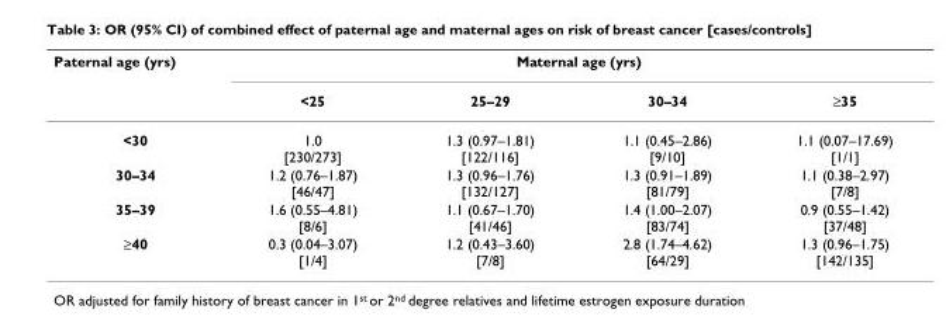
<table><thead><tr><td rowspan="2">Paternal age (yrs)</td><td colspan="4">Maternal age (yrs)</td></tr><tr><td>&lt;25</td><td>25–29</td><td>30–34</td><td>≥35</td></tr></thead><tbody><tr><td>&lt;30</td><td>1.0 [230/273]</td><td>1.3 (0.97–1.81) [122/116]</td><td>1.1 (0.45–2.86) [9/10]</td><td>1.1 (0.07–17.69) [1/1]</td></tr><tr><td>30–34</td><td>1.2 (0.76–1.87) [46/47]</td><td>1.3 (0.96–1.76) [132/127]</td><td>1.3 (0.91–1.89) [81/79]</td><td>1.1 (0.38–2.97) [7/8]</td></tr><tr><td>35–39</td><td>1.6 (0.55–4.81) [8/6]</td><td>1.1 (0.67–1.70) [41/46]</td><td>1.4 (1.00–2.07) [83/74]</td><td>0.9 (0.55–1.42) [37/48]</td></tr><tr><td>≥40</td><td>0.3 (0.04–3.07) [1/4]</td><td>1.2 (0.43–3.60) [7/8]</td><td>2.8 (1.74–4.62) [64/29]</td><td>1.3 (0.96–1.75) [142/135]</td></tr></tbody></table>